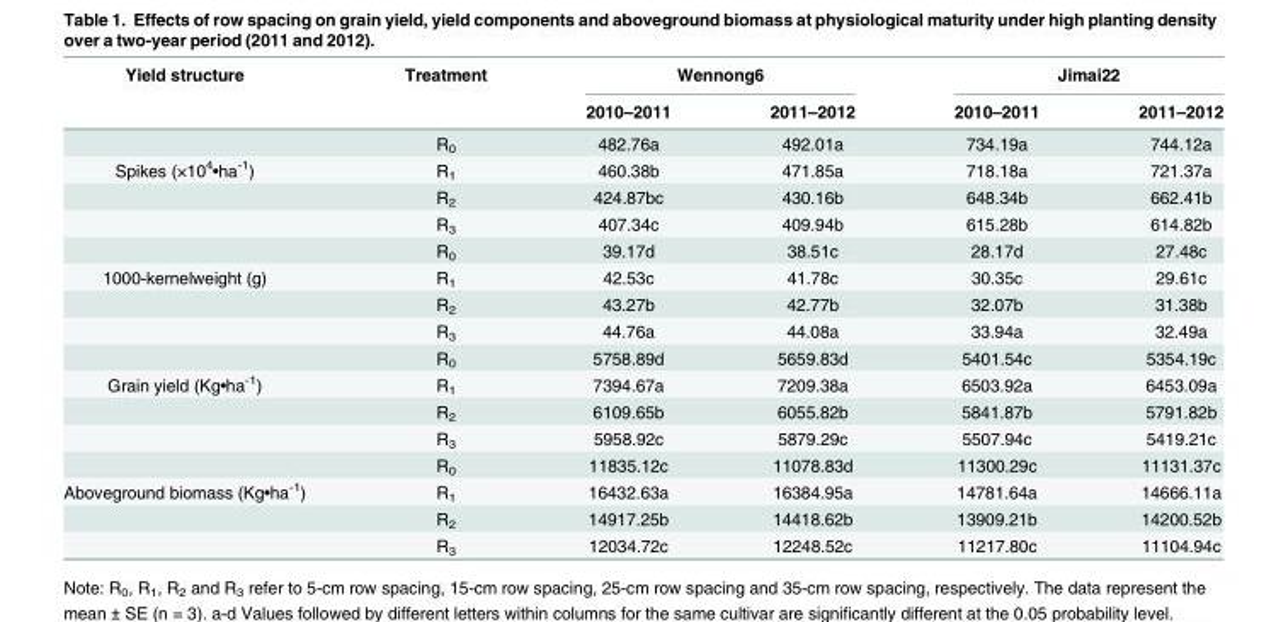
<table><thead><tr><td rowspan="2">Yield structure</td><td rowspan="2">Treatment</td><td colspan="2">Wennong6</td><td colspan="2">Jimai22</td></tr><tr><td>2010–2011</td><td>2011–2012</td><td>2010–2011</td><td>2011–2012</td></tr></thead><tbody><tr><td></td><td>R<sub>0</sub></td><td>482.76a</td><td>492.01a</td><td>734.19a</td><td>744.12a</td></tr><tr><td rowspan="4">Spikes (×10<sup>4</sup>•ha<sup>-1</sup>)</td><td>R<sub>1</sub></td><td>460.38b</td><td>471.85a</td><td>718.18a</td><td>721.37a</td></tr><tr><td>R<sub>2</sub></td><td>424.87bc</td><td>430.16b</td><td>648.34b</td><td>662.41b</td></tr><tr><td>R<sub>3</sub></td><td>407.34c</td><td>409.94b</td><td>615.28b</td><td>614.82b</td></tr><tr><td>R<sub>0</sub></td><td>39.17d</td><td>38.51c</td><td>28.17d</td><td>27.48c</td></tr><tr><td rowspan="4">1000-kernelweight (g)</td><td>R<sub>1</sub></td><td>42.53c</td><td>41.78c</td><td>30.35c</td><td>29.61c</td></tr><tr><td>R<sub>2</sub></td><td>43.27b</td><td>42.77b</td><td>32.07b</td><td>31.38b</td></tr><tr><td>R<sub>3</sub></td><td>44.76a</td><td>44.08a</td><td>33.94a</td><td>32.49a</td></tr><tr><td>R<sub>0</sub></td><td>5758.89d</td><td>5659.83d</td><td>5401.54c</td><td>5354.19c</td></tr><tr><td rowspan="4">Grain yield (Kg•ha<sup>-1</sup>)</td><td>R<sub>1</sub></td><td>7394.67a</td><td>7209.38a</td><td>6503.92a</td><td>6453.09a</td></tr><tr><td>R<sub>2</sub></td><td>6109.65b</td><td>6055.82b</td><td>5841.87b</td><td>5791.82b</td></tr><tr><td>R<sub>3</sub></td><td>5958.92c</td><td>5879.29c</td><td>5507.94c</td><td>5419.21c</td></tr><tr><td>R<sub>0</sub></td><td>11835.12c</td><td>11078.83d</td><td>11300.29c</td><td>11131.37c</td></tr><tr><td rowspan="3">Aboveground biomass (Kg•ha<sup>-1</sup>)</td><td>R<sub>1</sub></td><td>16432.63a</td><td>16384.95a</td><td>14781.64a</td><td>14666.11a</td></tr><tr><td>R<sub>2</sub></td><td>14917.25b</td><td>14418.62b</td><td>13909.21b</td><td>14200.52b</td></tr><tr><td>R<sub>3</sub></td><td>12034.72c</td><td>12248.52c</td><td>11217.80c</td><td>11104.94c</td></tr></tbody></table>